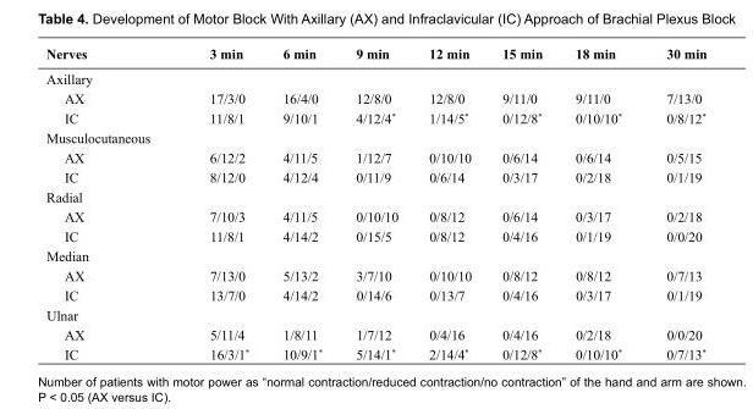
<table><thead><tr><td>Nerves</td><td>3 min</td><td>6 min</td><td>9 min</td><td>12 min</td><td>15 min</td><td>18 min</td><td>30 min</td></tr></thead><tbody><tr><td colspan="8">Axillary</td></tr><tr><td>AX</td><td>17/3/0</td><td>16/4/0</td><td>12/8/0</td><td>12/8/0</td><td>9/11/0</td><td>9/11/0</td><td>7/13/0</td></tr><tr><td>IC</td><td>11/8/1</td><td>9/10/1</td><td>4/12/4*</td><td>1/14/5*</td><td>0/12/8*</td><td>0/10/10*</td><td>0/8/12*</td></tr><tr><td colspan="8">Musculocutaneous</td></tr><tr><td>AX</td><td>6/12/2</td><td>4/11/5</td><td>1/12/7</td><td>0/10/10</td><td>0/6/14</td><td>0/6/14</td><td>0/5/15</td></tr><tr><td>IC</td><td>8/12/0</td><td>4/12/4</td><td>0/11/9</td><td>0/6/14</td><td>0/3/17</td><td>0/2/18</td><td>0/1/19</td></tr><tr><td colspan="8">Radial</td></tr><tr><td>AX</td><td>7/10/3</td><td>4/11/5</td><td>0/10/10</td><td>0/8/12</td><td>0/6/14</td><td>0/3/17</td><td>0/2/18</td></tr><tr><td>IC</td><td>11/8/1</td><td>4/14/2</td><td>0/15/5</td><td>0/8/12</td><td>0/4/16</td><td>0/1/19</td><td>0/0/20</td></tr><tr><td colspan="8">Median</td></tr><tr><td>AX</td><td>7/13/0</td><td>5/13/2</td><td>3/7/10</td><td>0/10/10</td><td>0/8/12</td><td>0/8/12</td><td>0/7/13</td></tr><tr><td>IC</td><td>13/7/0</td><td>4/14/2</td><td>0/14/6</td><td>0/13/7</td><td>0/4/16</td><td>0/3/17</td><td>0/1/19</td></tr><tr><td colspan="8">Ulnar</td></tr><tr><td>AX</td><td>5/11/4</td><td>1/8/11</td><td>1/7/12</td><td>0/4/16</td><td>0/4/16</td><td>0/2/18</td><td>0/0/20</td></tr><tr><td>IC</td><td>16/3/1*</td><td>10/9/1*</td><td>5/14/1*</td><td>2/14/4*</td><td>0/12/8*</td><td>0/10/10*</td><td>0/7/13*</td></tr></tbody></table>